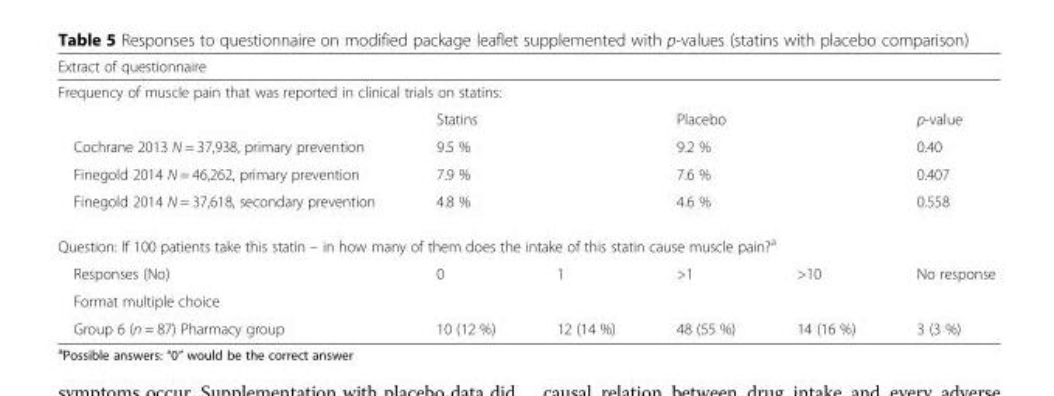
<table><thead><tr><td colspan="6">Extract of questionnaire</td></tr></thead><tbody><tr><td colspan="6">Frequency of muscle pain that was reported in clinical trials on statins:</td></tr><tr><td></td><td colspan="2">Statins</td><td colspan="2">Placebo</td><td>p-value</td></tr><tr><td>Cochrane 2013 N = 37,938, primary prevention</td><td colspan="2">9.5 %</td><td colspan="2">9.2 %</td><td>0.40</td></tr><tr><td>Finegold 2014 N = 46,262, primary prevention</td><td colspan="2">7.9 %</td><td colspan="2">7.6 %</td><td>0.407</td></tr><tr><td>Finegold 2014 N = 37,618, secondary prevention</td><td colspan="2">4.8 %</td><td colspan="2">4.6 %</td><td>0.558</td></tr><tr><td colspan="6">Question: If 100 patients take this statin – in how many of them does the intake of this statin cause muscle pain?<sup>a</sup></td></tr><tr><td>Responses (No)</td><td rowspan="2">0</td><td rowspan="2">1</td><td rowspan="2">&gt;1</td><td rowspan="2">&gt;10</td><td rowspan="2">No response</td></tr><tr><td>Format multiple choice</td></tr><tr><td>Group 6 (n = 87) Pharmacy group</td><td>10 (12 %)</td><td>12 (14 %)</td><td>48 (55 %)</td><td>14 (16 %)</td><td>3 (3 %)</td></tr></tbody></table>